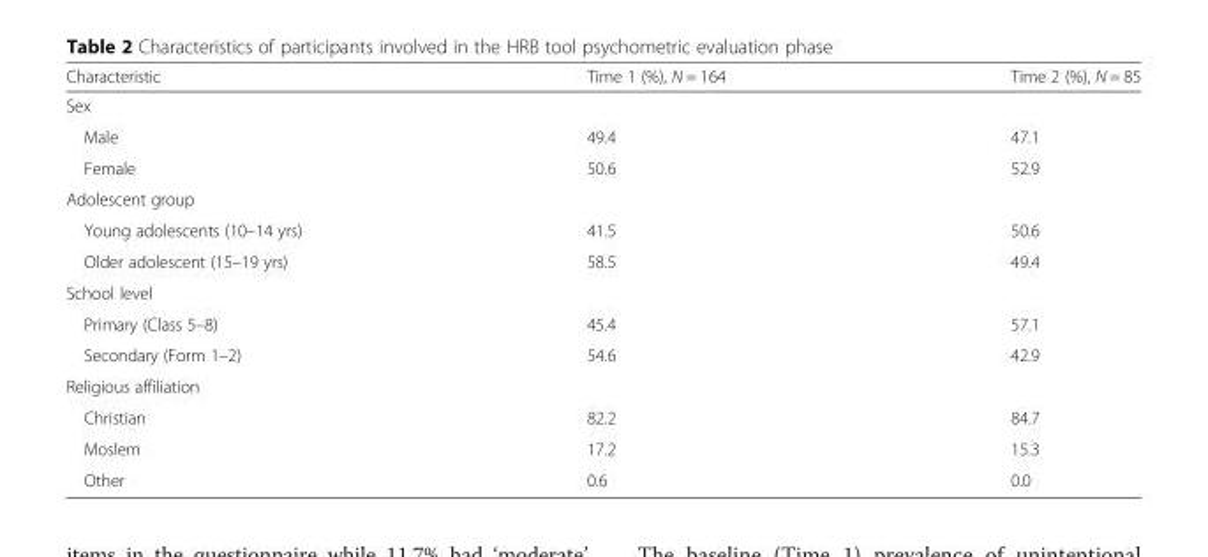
<table><thead><tr><td>Characteristic</td><td>Time 1 (%), N = 164</td><td>Time 2 (%), N = 85</td></tr></thead><tbody><tr><td colspan="3">Sex</td></tr><tr><td>Male</td><td>49.4</td><td>47.1</td></tr><tr><td>Female</td><td>50.6</td><td>52.9</td></tr><tr><td colspan="3">Adolescent group</td></tr><tr><td>Young adolescents (10–14 yrs)</td><td>41.5</td><td>50.6</td></tr><tr><td>Older adolescent (15–19 yrs)</td><td>58.5</td><td>49.4</td></tr><tr><td colspan="3">School level</td></tr><tr><td>Primary (Class 5–8)</td><td>45.4</td><td>57.1</td></tr><tr><td>Secondary (Form 1–2)</td><td>54.6</td><td>42.9</td></tr><tr><td colspan="3">Religious affiliation</td></tr><tr><td>Christian</td><td>82.2</td><td>84.7</td></tr><tr><td>Moslem</td><td>17.2</td><td>15.3</td></tr><tr><td>Other</td><td>0.6</td><td>0.0</td></tr></tbody></table>